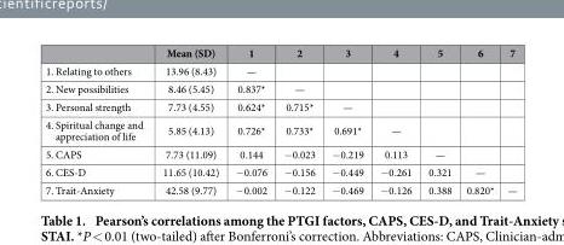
<table><thead><tr><td></td><td>Mean (SD)</td><td>1</td><td>2</td><td>3</td><td>4</td><td>5</td><td>6</td><td>7</td></tr></thead><tbody><tr><td>1. Relating to others</td><td>13.96 (8.43)</td><td>—</td><td></td><td></td><td></td><td></td><td></td><td></td></tr><tr><td>2. New possibilities</td><td>8.46 (5.45)</td><td>0.837*</td><td>—</td><td></td><td></td><td></td><td></td><td></td></tr><tr><td>3. Personal strength</td><td>7.73 (4.55)</td><td>0.624*</td><td>0.715*</td><td>—</td><td></td><td></td><td></td><td></td></tr><tr><td>4. Spiritual change and appreciation of life</td><td>5.85 (4.13)</td><td>0.726*</td><td>0.733*</td><td>0.691*</td><td>—</td><td></td><td></td><td></td></tr><tr><td>5. CAPS</td><td>7.73 (11.09)</td><td>0.144</td><td>− 0.023</td><td>− 0.219</td><td>0.113</td><td>—</td><td></td><td></td></tr><tr><td>6. CES-D</td><td>11.65 (10.42)</td><td>− 0.076</td><td>− 0.156</td><td>− 0.449</td><td>− 0.261</td><td>0.321</td><td>—</td><td></td></tr><tr><td>7. Trait-Anxiety</td><td>42.58 (9.77)</td><td>− 0.002</td><td>− 0.122</td><td>− 0.469</td><td>− 0.126</td><td>0.388</td><td>0.820*</td><td>—</td></tr></tbody></table>